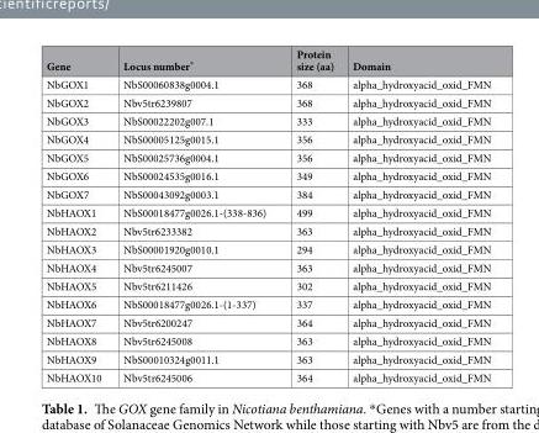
<table><thead><tr><td>Gene</td><td>Locus number*</td><td>Protein size (aa)</td><td>Domain</td></tr></thead><tbody><tr><td>NbGOX1</td><td>NbS00060838g0004.1</td><td>368</td><td>alpha_hydroxyacid_oxid_FMN</td></tr><tr><td>NbGOX2</td><td>Nbv5tr6239807</td><td>368</td><td>alpha_hydroxyacid_oxid_FMN</td></tr><tr><td>NbGOX3</td><td>NbS00022202g007.1</td><td>333</td><td>alpha_hydroxyacid_oxid_FMN</td></tr><tr><td>NbGOX4</td><td>NbS00005125g0015.1</td><td>356</td><td>alpha_hydroxyacid_oxid_FMN</td></tr><tr><td>NbGOX5</td><td>NbS00025736g0004.1</td><td>356</td><td>alpha_hydroxyacid_oxid_FMN</td></tr><tr><td>NbGOX6</td><td>NbS00024535g0016.1</td><td>349</td><td>alpha_hydroxyacid_oxid_FMN</td></tr><tr><td>NbGOX7</td><td>NbS00043092g0003.1</td><td>384</td><td>alpha_hydroxyacid_oxid_FMN</td></tr><tr><td>NbHAOX1</td><td>NbS00018477g0026.1-(338-836)</td><td>499</td><td>alpha_hydroxyacid_oxid_FMN</td></tr><tr><td>NbHAOX2</td><td>Nbv5tr6233382</td><td>363</td><td>alpha_hydroxyacid_oxid_FMN</td></tr><tr><td>NbHAOX3</td><td>NbS00001920g0010.1</td><td>294</td><td>alpha_hydroxyacid_oxid_FMN</td></tr><tr><td>NbHAOX4</td><td>Nbv5tr6245007</td><td>363</td><td>alpha_hydroxyacid_oxid_FMN</td></tr><tr><td>NbHAOX5</td><td>Nbv5tr6211426</td><td>302</td><td>alpha_hydroxyacid_oxid_FMN</td></tr><tr><td>NbHAOX6</td><td>NbS00018477g0026.1-(1-337)</td><td>337</td><td>alpha_hydroxyacid_oxid_FMN</td></tr><tr><td>NbHAOX7</td><td>Nbv5tr6200247</td><td>364</td><td>alpha_hydroxyacid_oxid_FMN</td></tr><tr><td>NbHAOX8</td><td>Nbv5tr6245008</td><td>363</td><td>alpha_hydroxyacid_oxid_FMN</td></tr><tr><td>NbHAOX9</td><td>NbS00010324g0011.1</td><td>363</td><td>alpha_hydroxyacid_oxid_FMN</td></tr><tr><td>NbHAOX10</td><td>Nbv5tr6245006</td><td>364</td><td>alpha_hydroxyacid_oxid_FMN</td></tr></tbody></table>